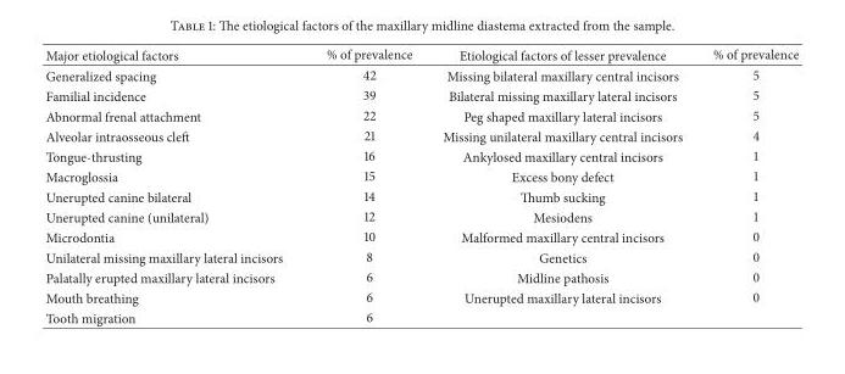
<table><thead><tr><td>Major etiological factors</td><td>% of prevalence</td><td>Etiological factors of lesser prevalence</td><td>% of prevalence</td></tr></thead><tbody><tr><td>Generalized spacing</td><td>42</td><td>Missing bilateral maxillary central incisors</td><td>5</td></tr><tr><td>Familial incidence</td><td>39</td><td>Bilateral missing maxillary lateral incisors</td><td>5</td></tr><tr><td>Abnormal frenal attachment</td><td>22</td><td>Peg shaped maxillary lateral incisors</td><td>5</td></tr><tr><td>Alveolar intraosseous cleft</td><td>21</td><td>Missing unilateral maxillary central incisors</td><td>4</td></tr><tr><td>Tongue-thrusting</td><td>16</td><td>Ankylosed maxillary central incisors</td><td>1</td></tr><tr><td>Macroglossia</td><td>15</td><td>Excess bony defect</td><td>1</td></tr><tr><td>Unerupted canine bilateral</td><td>14</td><td>Thumb sucking</td><td>1</td></tr><tr><td>Unerupted canine (unilateral)</td><td>12</td><td>Mesiodens</td><td>1</td></tr><tr><td>Microdontia</td><td>10</td><td>Malformed maxillary central incisors</td><td>0</td></tr><tr><td>Unilateral missing maxillary lateral incisors</td><td>8</td><td>Genetics</td><td>0</td></tr><tr><td>Palatally erupted maxillary lateral incisors</td><td>6</td><td>Midline pathosis</td><td>0</td></tr><tr><td>Mouth breathing</td><td>6</td><td>Unerupted maxillary lateral incisors</td><td>0</td></tr><tr><td>Tooth migration</td><td>6</td><td></td><td></td></tr></tbody></table>